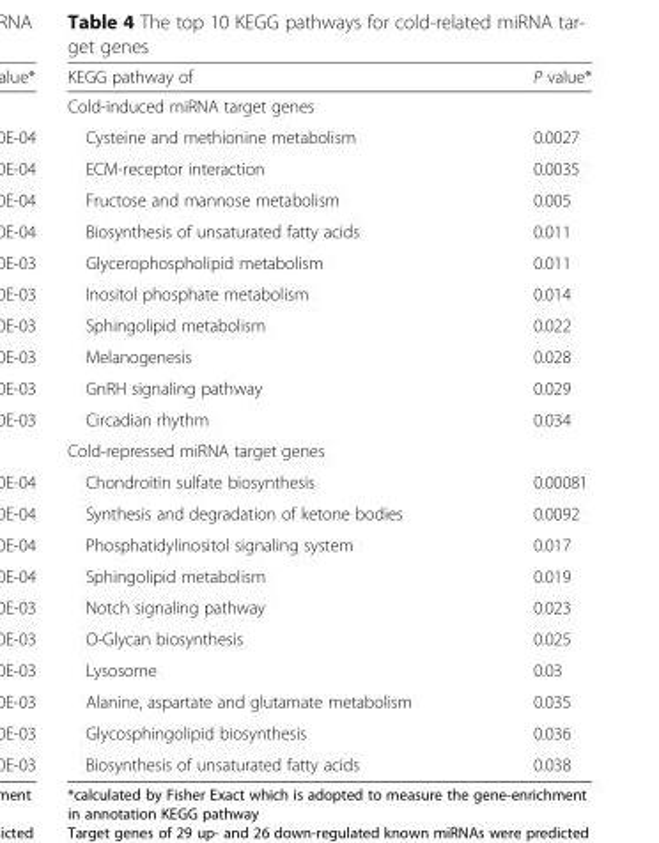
<table><thead><tr><td>KEGG pathway of</td><td>P value*</td></tr></thead><tbody><tr><td colspan="2">Cold-induced miRNA target genes</td></tr><tr><td>Cysteine and methionine metabolism</td><td>0.0027</td></tr><tr><td>ECM-receptor interaction</td><td>0.0035</td></tr><tr><td>Fructose and mannose metabolism</td><td>0.005</td></tr><tr><td>Biosynthesis of unsaturated fatty acids</td><td>0.011</td></tr><tr><td>Glycerophospholipid metabolism</td><td>0.011</td></tr><tr><td>Inositol phosphate metabolism</td><td>0.014</td></tr><tr><td>Sphingolipid metabolism</td><td>0.022</td></tr><tr><td>Melanogenesis</td><td>0.028</td></tr><tr><td>GnRH signaling pathway</td><td>0.029</td></tr><tr><td>Circadian rhythm</td><td>0.034</td></tr><tr><td colspan="2">Cold-repressed miRNA target genes</td></tr><tr><td>Chondroitin sulfate biosynthesis</td><td>0.00081</td></tr><tr><td>Synthesis and degradation of ketone bodies</td><td>0.0092</td></tr><tr><td>Phosphatidylinositol signaling system</td><td>0.017</td></tr><tr><td>Sphingolipid metabolism</td><td>0.019</td></tr><tr><td>Notch signaling pathway</td><td>0.023</td></tr><tr><td>O-Glycan biosynthesis</td><td>0.025</td></tr><tr><td>Lysosome</td><td>0.03</td></tr><tr><td>Alanine, aspartate and glutamate metabolism</td><td>0.035</td></tr><tr><td>Glycosphingolipid biosynthesis</td><td>0.036</td></tr><tr><td>Biosynthesis of unsaturated fatty acids</td><td>0.038</td></tr></tbody></table>